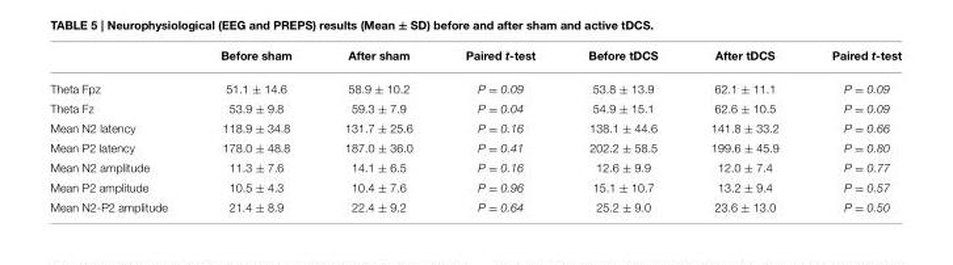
<table><thead><tr><td></td><td>Before sham</td><td>After sham</td><td>Paired t-test</td><td>Before tDCS</td><td>After tDCS</td><td>Paired t-test</td></tr></thead><tbody><tr><td>Theta Fpz</td><td>51.1 ± 14.6</td><td>58.9 ± 10.2</td><td>P = 0.09</td><td>53.8 ± 13.9</td><td>62.1 ± 11.1</td><td>P = 0.09</td></tr><tr><td>Theta Fz</td><td>53.9 ± 9.8</td><td>59.3 ± 7.9</td><td>P = 0.04</td><td>54.9 ± 15.1</td><td>62.6 ± 10.5</td><td>P = 0.09</td></tr><tr><td>Mean N2 latency</td><td>118.9 ± 34.8</td><td>131.7 ± 25.6</td><td>P = 0.16</td><td>138.1 ± 44.6</td><td>141.8 ± 33.2</td><td>P = 0.66</td></tr><tr><td>Mean P2 latency</td><td>178.0 ± 48.8</td><td>187.0 ± 36.0</td><td>P = 0.41</td><td>202.2 ± 58.5</td><td>199.6 ± 45.9</td><td>P = 0.80</td></tr><tr><td>Mean N2 amplitude</td><td>11.3 ± 7.6</td><td>14.1 ± 6.5</td><td>P = 0.16</td><td>12.6 ± 9.9</td><td>12.0 ± 7.4</td><td>P = 0.77</td></tr><tr><td>Mean P2 amplitude</td><td>10.5 ± 4.3</td><td>10.4 ± 7.6</td><td>P = 0.96</td><td>15.1 ± 10.7</td><td>13.2 ± 9.4</td><td>P = 0.57</td></tr><tr><td>Mean N2-P2 amplitude</td><td>21.4 ± 8.9</td><td>22.4 ± 9.2</td><td>P = 0.64</td><td>25.2 ± 9.0</td><td>23.6 ± 13.0</td><td>P = 0.50</td></tr></tbody></table>